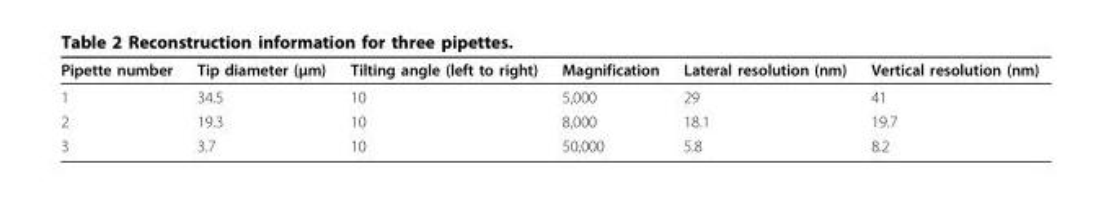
<table><thead><tr><td>Pipette number</td><td>Tip diameter (μm)</td><td>Tilting angle (left to right)</td><td>Magnification</td><td>Lateral resolution (nm)</td><td>Vertical resolution (nm)</td></tr></thead><tbody><tr><td>1</td><td>34.5</td><td>10</td><td>5,000</td><td>29</td><td>41</td></tr><tr><td>2</td><td>19.3</td><td>10</td><td>8,000</td><td>18.1</td><td>19.7</td></tr><tr><td>3</td><td>3.7</td><td>10</td><td>50,000</td><td>5.8</td><td>8.2</td></tr></tbody></table>